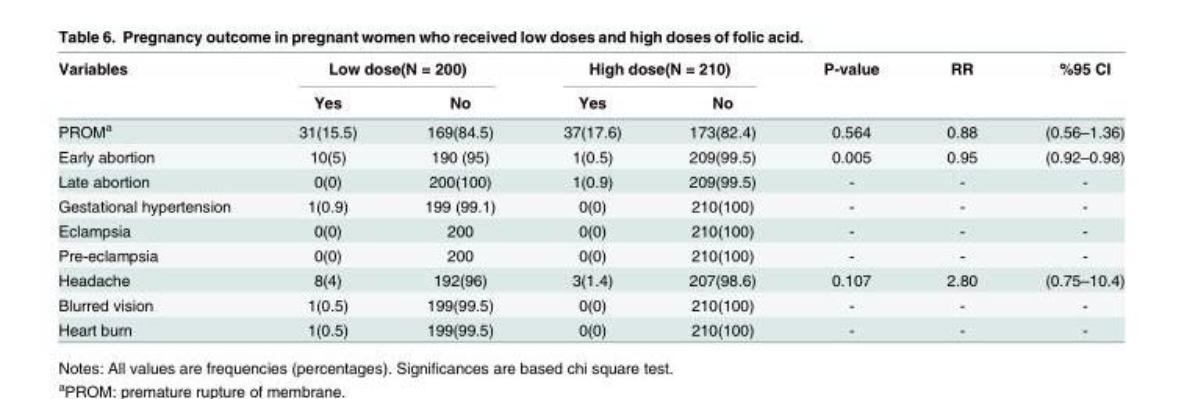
<table><thead><tr><td rowspan="2">Variables</td><td colspan="2">Low dose(N = 200)</td><td colspan="2">High dose(N = 210)</td><td rowspan="2">P-value</td><td rowspan="2">RR</td><td rowspan="2">%95 CI</td></tr><tr><td>Yes</td><td>No</td><td>Yes</td><td>No</td></tr></thead><tbody><tr><td>PROM<sup>a</sup></td><td>31(15.5)</td><td>169(84.5)</td><td>37(17.6)</td><td>173(82.4)</td><td>0.564</td><td>0.88</td><td>(0.56–1.36)</td></tr><tr><td>Early abortion</td><td>10(5)</td><td>190 (95)</td><td>1(0.5)</td><td>209(99.5)</td><td>0.005</td><td>0.95</td><td>(0.92–0.98)</td></tr><tr><td>Late abortion</td><td>0(0)</td><td>200(100)</td><td>1(0.9)</td><td>209(99.5)</td><td>-</td><td>-</td><td>-</td></tr><tr><td>Gestational hypertension</td><td>1(0.9)</td><td>199 (99.1)</td><td>0(0)</td><td>210(100)</td><td>-</td><td>-</td><td>-</td></tr><tr><td>Eclampsia</td><td>0(0)</td><td>200</td><td>0(0)</td><td>210(100)</td><td>-</td><td>-</td><td>-</td></tr><tr><td>Pre-eclampsia</td><td>0(0)</td><td>200</td><td>0(0)</td><td>210(100)</td><td>-</td><td>-</td><td>-</td></tr><tr><td>Headache</td><td>8(4)</td><td>192(96)</td><td>3(1.4)</td><td>207(98.6)</td><td>0.107</td><td>2.80</td><td>(0.75–10.4)</td></tr><tr><td>Blurred vision</td><td>1(0.5)</td><td>199(99.5)</td><td>0(0)</td><td>210(100)</td><td>-</td><td>-</td><td>-</td></tr><tr><td>Heart burn</td><td>1(0.5)</td><td>199(99.5)</td><td>0(0)</td><td>210(100)</td><td>-</td><td>-</td><td>-</td></tr></tbody></table>